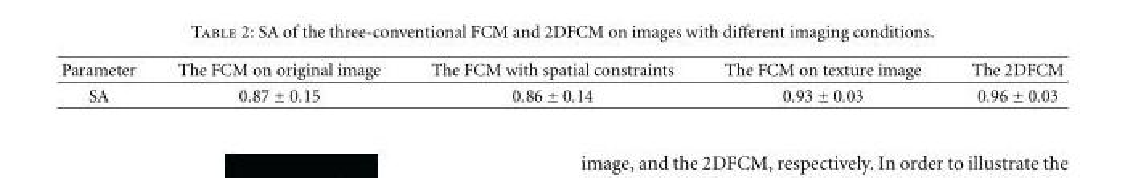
<table><thead><tr><td>Parameter</td><td>The FCM on original image</td><td>The FCM with spatial constraints</td><td>The FCM on texture image</td><td>The 2DFCM</td></tr></thead><tbody><tr><td>SA</td><td>0.87 ± 0.15</td><td>0.86 ± 0.14</td><td>0.93 ± 0.03</td><td>0.96 ± 0.03</td></tr></tbody></table>